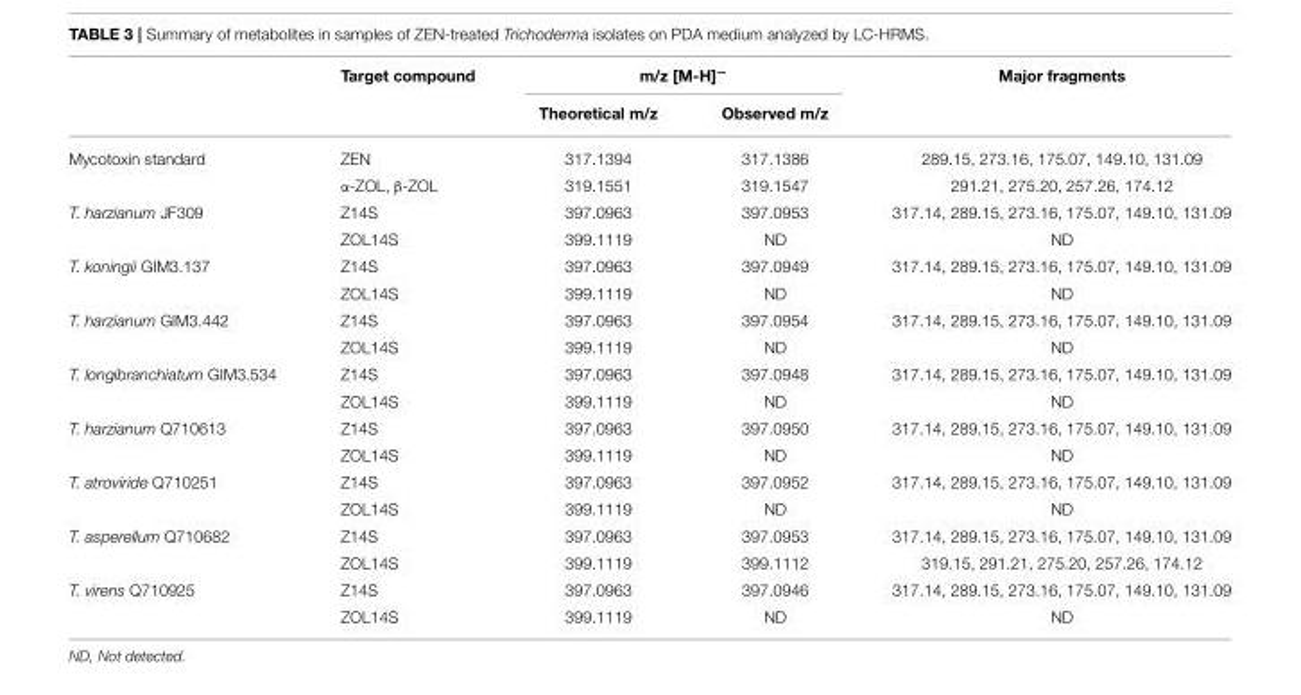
<table><thead><tr><td rowspan="2"></td><td rowspan="2">Target compound</td><td colspan="2">m/z [M-H]<sup>−</sup></td><td rowspan="2">Major fragments</td></tr><tr><td>Theoretical m/z</td><td>Observed m/z</td></tr></thead><tbody><tr><td rowspan="2">Mycotoxin standard</td><td>ZEN</td><td>317.1394</td><td>317.1386</td><td>289.15, 273.16, 175.07, 149.10, 131.09</td></tr><tr><td>α-ZOL, β-ZOL</td><td>319.1551</td><td>319.1547</td><td>291.21, 275.20, 257.26, 174.12</td></tr><tr><td rowspan="2">T. harzianum JF309</td><td>Z14S</td><td>397.0963</td><td>397.0953</td><td>317.14, 289.15, 273.16, 175.07, 149.10, 131.09</td></tr><tr><td>ZOL14S</td><td>399.1119</td><td>ND</td><td>ND</td></tr><tr><td rowspan="2">T. koningii GIM3.137</td><td>Z14S</td><td>397.0963</td><td>397.0949</td><td>317.14, 289.15, 273.16, 175.07, 149.10, 131.09</td></tr><tr><td>ZOL14S</td><td>399.1119</td><td>ND</td><td>ND</td></tr><tr><td rowspan="2">T. harzianum GIM3.442</td><td>Z14S</td><td>397.0963</td><td>397.0954</td><td>317.14, 289.15, 273.16, 175.07, 149.10, 131.09</td></tr><tr><td>ZOL14S</td><td>399.1119</td><td>ND</td><td>ND</td></tr><tr><td rowspan="2">T. longibranchiatum GIM3.534</td><td>Z14S</td><td>397.0963</td><td>397.0948</td><td>317.14, 289.15, 273.16, 175.07, 149.10, 131.09</td></tr><tr><td>ZOL14S</td><td>399.1119</td><td>ND</td><td>ND</td></tr><tr><td rowspan="2">T. harzianum Q710613</td><td>Z14S</td><td>397.0963</td><td>397.0950</td><td>317.14, 289.15, 273.16, 175.07, 149.10, 131.09</td></tr><tr><td>ZOL14S</td><td>399.1119</td><td>ND</td><td>ND</td></tr><tr><td rowspan="2">T. atroviride Q710251</td><td>Z14S</td><td>397.0963</td><td>397.0952</td><td>317.14, 289.15, 273.16, 175.07, 149.10, 131.09</td></tr><tr><td>ZOL14S</td><td>399.1119</td><td>ND</td><td>ND</td></tr><tr><td rowspan="2">T. asperellum Q710682</td><td>Z14S</td><td>397.0963</td><td>397.0953</td><td>317.14, 289.15, 273.16, 175.07, 149.10, 131.09</td></tr><tr><td>ZOL14S</td><td>399.1119</td><td>399.1112</td><td>319.15, 291.21, 275.20, 257.26, 174.12</td></tr><tr><td rowspan="2">T. virens Q710925</td><td>Z14S</td><td>397.0963</td><td>397.0946</td><td>317.14, 289.15, 273.16, 175.07, 149.10, 131.09</td></tr><tr><td>ZOL14S</td><td>399.1119</td><td>ND</td><td>ND</td></tr></tbody></table>